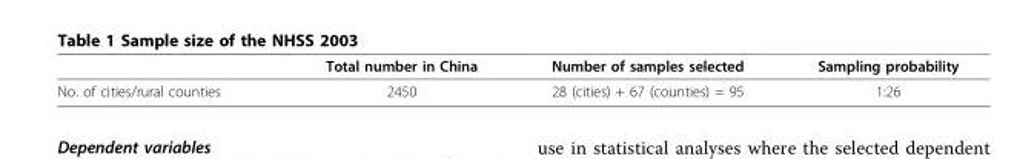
<table><thead><tr><td></td><td>Total number in China</td><td>Number of samples selected</td><td>Sampling probability</td></tr></thead><tbody><tr><td>No. of cities/rural counties</td><td>2450</td><td>28 (cities) + 67 (counties) = 95</td><td>1:26</td></tr></tbody></table>